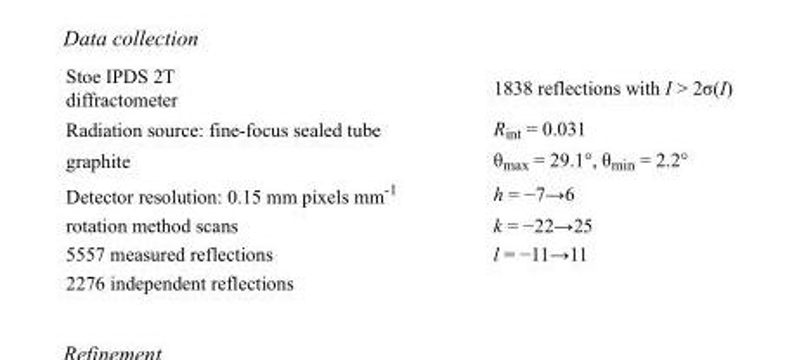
<table><tbody><tr><td>Stoe IPDS 2T diffractometer</td><td>1838 reflections with I &gt; 2σ(I)</td></tr><tr><td>Radiation source: fine-focus sealed tube</td><td>R<sub>int</sub> = 0.031</td></tr><tr><td>graphite</td><td>θ<sub>max</sub> = 29.1°, θ<sub>min</sub> = 2.2°</td></tr><tr><td>Detector resolution: 0.15 mm pixels mm<sup>-1</sup></td><td>h = −7→6</td></tr><tr><td>rotation method scans</td><td>k = −22→25</td></tr><tr><td>5557 measured reflections</td><td>l = −11→11</td></tr><tr><td>2276 independent reflections</td><td></td></tr></tbody></table>